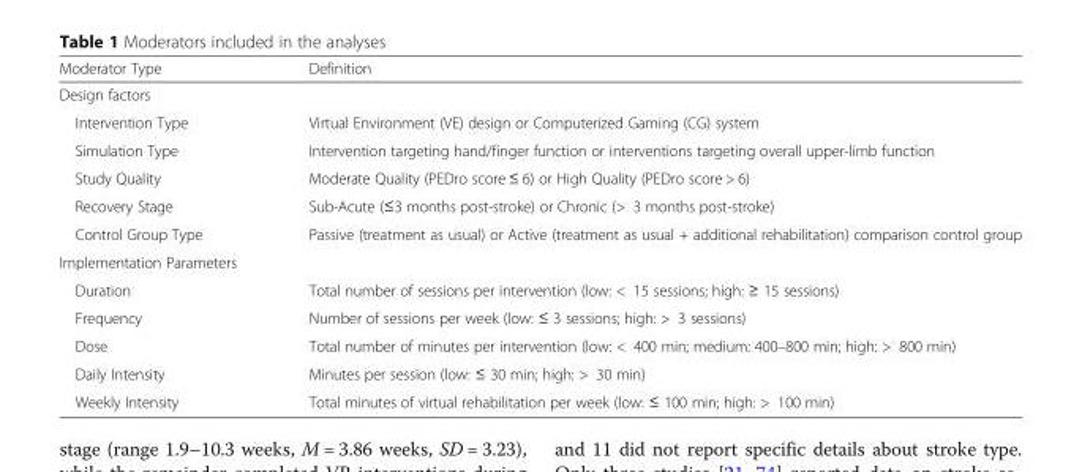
<table><thead><tr><td>Moderator Type</td><td>Definition</td></tr></thead><tbody><tr><td colspan="2">Design factors</td></tr><tr><td>Intervention Type</td><td>Virtual Environment (VE) design or Computerized Gaming (CG) system</td></tr><tr><td>Simulation Type</td><td>Intervention targeting hand/finger function or interventions targeting overall upper-limb function</td></tr><tr><td>Study Quality</td><td>Moderate Quality (PEDro score ≤ 6) or High Quality (PEDro score &gt; 6)</td></tr><tr><td>Recovery Stage</td><td>Sub-Acute (≤3 months post-stroke) or Chronic (&gt; 3 months post-stroke)</td></tr><tr><td>Control Group Type</td><td>Passive (treatment as usual) or Active (treatment as usual + additional rehabilitation) comparison control group</td></tr><tr><td colspan="2">Implementation Parameters</td></tr><tr><td>Duration</td><td>Total number of sessions per intervention (low: &lt; 15 sessions; high: ≥ 15 sessions)</td></tr><tr><td>Frequency</td><td>Number of sessions per week (low: ≤ 3 sessions; high: &gt; 3 sessions)</td></tr><tr><td>Dose</td><td>Total number of minutes per intervention (low: &lt; 400 min; medium: 400–800 min; high: &gt; 800 min)</td></tr><tr><td>Daily Intensity</td><td>Minutes per session (low: ≤ 30 min; high: &gt; 30 min)</td></tr><tr><td>Weekly Intensity</td><td>Total minutes of virtual rehabilitation per week (low: ≤ 100 min; high: &gt; 100 min)</td></tr></tbody></table>